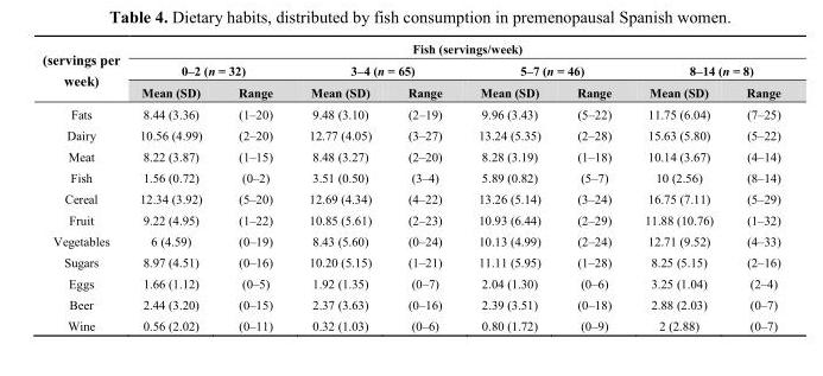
<table><thead><tr><td rowspan="3">(servings per week)</td><td colspan="8">Fish (servings/week)</td></tr><tr><td colspan="2">0–2 (n = 32)</td><td colspan="2">3–4 (n = 65)</td><td colspan="2">5–7 (n = 46)</td><td colspan="2">8–14 (n = 8)</td></tr><tr><td>Mean (SD)</td><td>Range</td><td>Mean (SD)</td><td>Range</td><td>Mean (SD)</td><td>Range</td><td>Mean (SD)</td><td>Range</td></tr></thead><tbody><tr><td>Fats</td><td>8.44 (3.36)</td><td>(1–20)</td><td>9.48 (3.10)</td><td>(2–19)</td><td>9.96 (3.43)</td><td>(5–22)</td><td>11.75 (6.04)</td><td>(7–25)</td></tr><tr><td>Dairy</td><td>10.56 (4.99)</td><td>(2–20)</td><td>12.77 (4.05)</td><td>(3–27)</td><td>13.24 (5.35)</td><td>(2–28)</td><td>15.63 (5.80)</td><td>(5–22)</td></tr><tr><td>Meat</td><td>8.22 (3.87)</td><td>(1–15)</td><td>8.48 (3.27)</td><td>(2–20)</td><td>8.28 (3.19)</td><td>(1–18)</td><td>10.14 (3.67)</td><td>(4–14)</td></tr><tr><td>Fish</td><td>1.56 (0.72)</td><td>(0–2)</td><td>3.51 (0.50)</td><td>(3–4)</td><td>5.89 (0.82)</td><td>(5–7)</td><td>10 (2.56)</td><td>(8–14)</td></tr><tr><td>Cereal</td><td>12.34 (3.92)</td><td>(5–20)</td><td>12.69 (4.34)</td><td>(4–22)</td><td>13.26 (5.14)</td><td>(3–24)</td><td>16.75 (7.11)</td><td>(5–29)</td></tr><tr><td>Fruit</td><td>9.22 (4.95)</td><td>(1–22)</td><td>10.85 (5.61)</td><td>(2–23)</td><td>10.93 (6.44)</td><td>(2–29)</td><td>11.88 (10.76)</td><td>(1–32)</td></tr><tr><td>Vegetables</td><td>6 (4.59)</td><td>(0–19)</td><td>8.43 (5.60)</td><td>(0–24)</td><td>10.13 (4.99)</td><td>(2–24)</td><td>12.71 (9.52)</td><td>(4–33)</td></tr><tr><td>Sugars</td><td>8.97 (4.51)</td><td>(0–16)</td><td>10.20 (5.15)</td><td>(1–21)</td><td>11.11 (5.95)</td><td>(1–28)</td><td>8.25 (5.15)</td><td>(2–16)</td></tr><tr><td>Eggs</td><td>1.66 (1.12)</td><td>(0–5)</td><td>1.92 (1.35)</td><td>(0–7)</td><td>2.04 (1.30)</td><td>(0–6)</td><td>3.25 (1.04)</td><td>(2–4)</td></tr><tr><td>Beer</td><td>2.44 (3.20)</td><td>(0–15)</td><td>2.37 (3.63)</td><td>(0–16)</td><td>2.39 (3.51)</td><td>(0–18)</td><td>2.88 (2.03)</td><td>(0–7)</td></tr><tr><td>Wine</td><td>0.56 (2.02)</td><td>(0–11)</td><td>0.32 (1.03)</td><td>(0–6)</td><td>0.80 (1.72)</td><td>(0–9)</td><td>2 (2.88)</td><td>(0–7)</td></tr></tbody></table>